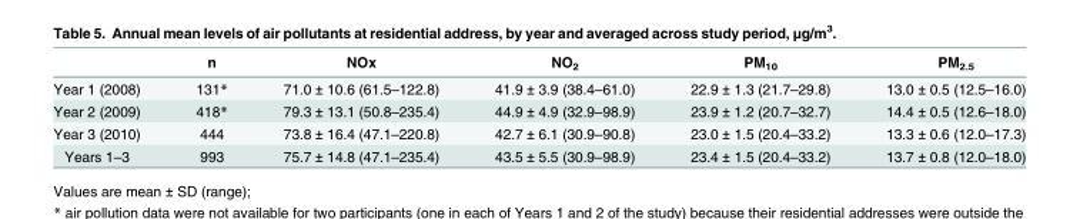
<table><thead><tr><td></td><td>n</td><td>NOx</td><td>NO<sub>2</sub></td><td>PM<sub>10</sub></td><td>PM<sub>2.5</sub></td></tr></thead><tbody><tr><td>Year 1 (2008)</td><td>131*</td><td>71.0 ± 10.6 (61.5–122.8)</td><td>41.9 ± 3.9 (38.4–61.0)</td><td>22.9 ± 1.3 (21.7–29.8)</td><td>13.0 ± 0.5 (12.5–16.0)</td></tr><tr><td>Year 2 (2009)</td><td>418*</td><td>79.3 ± 13.1 (50.8–235.4)</td><td>44.9 ± 4.9 (32.9–98.9)</td><td>23.9 ± 1.2 (20.7–32.7)</td><td>14.4 ± 0.5 (12.6–18.0)</td></tr><tr><td>Year 3 (2010)</td><td>444</td><td>73.8 ± 16.4 (47.1–220.8)</td><td>42.7 ± 6.1 (30.9–90.8)</td><td>23.0 ± 1.5 (20.4–33.2)</td><td>13.3 ± 0.6 (12.0–17.3)</td></tr><tr><td>Years 1–3</td><td>993</td><td>75.7 ± 14.8 (47.1–235.4)</td><td>43.5 ± 5.5 (30.9–98.9)</td><td>23.4 ± 1.5 (20.4–33.2)</td><td>13.7 ± 0.8 (12.0–18.0)</td></tr></tbody></table>